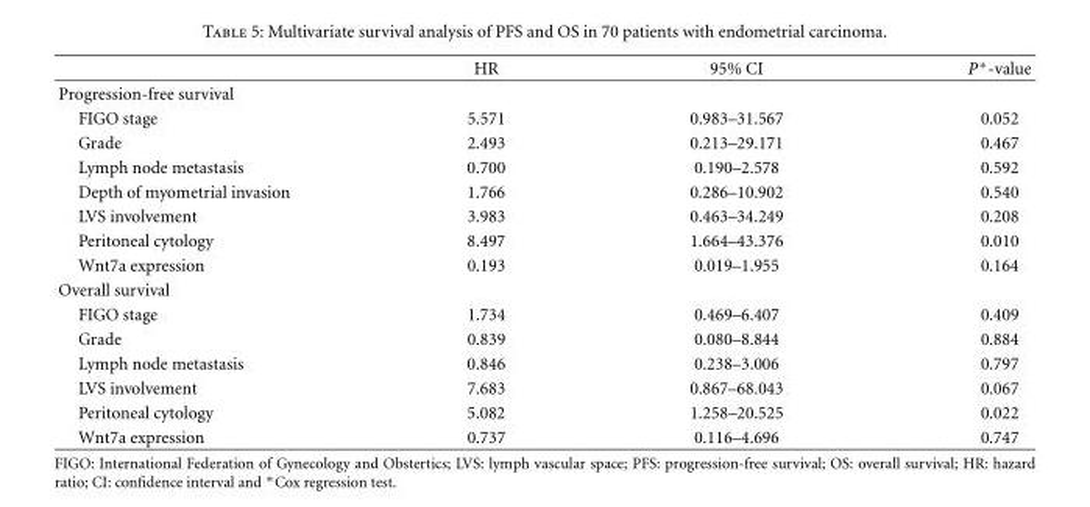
<table><thead><tr><td></td><td>HR</td><td>95% CI</td><td>P∗-value</td></tr></thead><tbody><tr><td colspan="4">Progression-free survival</td></tr><tr><td>FIGO stage</td><td>5.571</td><td>0.983–31.567</td><td>0.052</td></tr><tr><td>Grade</td><td>2.493</td><td>0.213–29.171</td><td>0.467</td></tr><tr><td>Lymph node metastasis</td><td>0.700</td><td>0.190–2.578</td><td>0.592</td></tr><tr><td>Depth of myometrial invasion</td><td>1.766</td><td>0.286–10.902</td><td>0.540</td></tr><tr><td>LVS involvement</td><td>3.983</td><td>0.463–34.249</td><td>0.208</td></tr><tr><td>Peritoneal cytology</td><td>8.497</td><td>1.664–43.376</td><td>0.010</td></tr><tr><td>Wnt7a expression</td><td>0.193</td><td>0.019–1.955</td><td>0.164</td></tr><tr><td colspan="4">Overall survival</td></tr><tr><td>FIGO stage</td><td>1.734</td><td>0.469–6.407</td><td>0.409</td></tr><tr><td>Grade</td><td>0.839</td><td>0.080–8.844</td><td>0.884</td></tr><tr><td>Lymph node metastasis</td><td>0.846</td><td>0.238–3.006</td><td>0.797</td></tr><tr><td>LVS involvement</td><td>7.683</td><td>0.867–68.043</td><td>0.067</td></tr><tr><td>Peritoneal cytology</td><td>5.082</td><td>1.258–20.525</td><td>0.022</td></tr><tr><td>Wnt7a expression</td><td>0.737</td><td>0.116–4.696</td><td>0.747</td></tr></tbody></table>